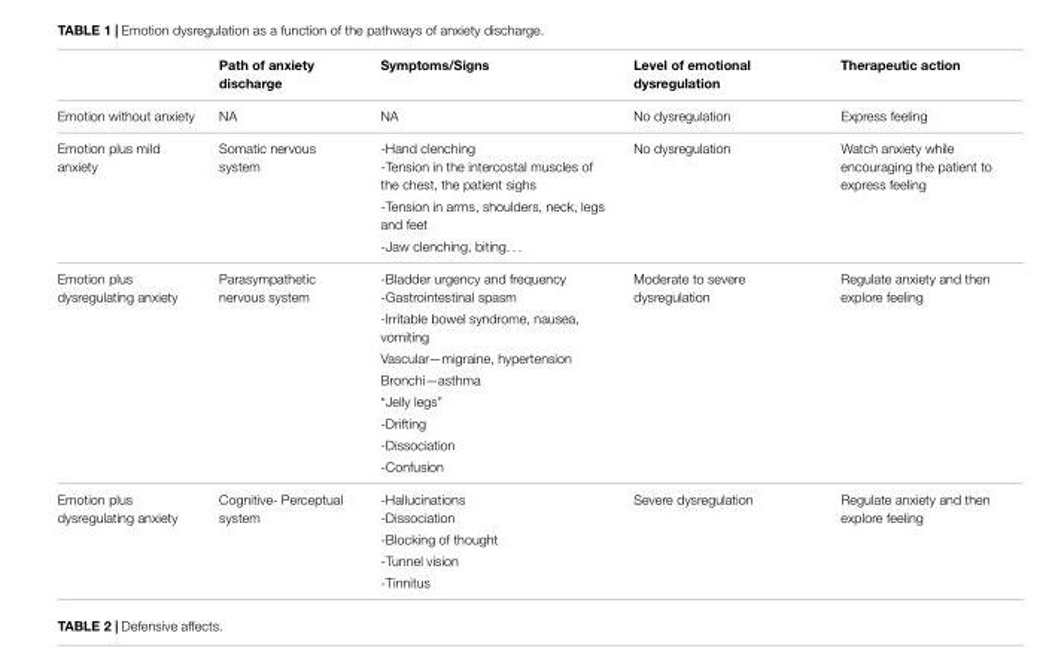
<table><thead><tr><td></td><td>Path of anxiety discharge</td><td>Symptoms/Signs</td><td>Level of emotional dysregulation</td><td>Therapeutic action</td></tr></thead><tbody><tr><td>Emotion without anxiety</td><td>NA</td><td>NA</td><td>No dysregulation</td><td>Express feeling</td></tr><tr><td rowspan="3">Emotion plus mild anxiety</td><td>Somatic nervous system</td><td>-Hand clenching -Tension in the intercostal muscles of the chest, the patient sighs</td><td>No dysregulation</td><td>Watch anxiety while encouraging the patient to express feeling</td></tr><tr><td></td><td>-Tension in arms, shoulders, neck, legs and feet</td><td></td><td></td></tr><tr><td></td><td>-Jaw clenching, biting. . .</td><td></td><td></td></tr><tr><td rowspan="8">Emotion plus dysregulating anxiety</td><td>Parasympathetic nervous system</td><td>-Bladder urgency and frequency -Gastrointestinal spasm</td><td>Moderate to severe dysregulation</td><td>Regulate anxiety and then explore feeling</td></tr><tr><td></td><td>-Irritable bowel syndrome, nausea, vomiting</td><td></td><td></td></tr><tr><td></td><td>Vascular—migraine, hypertension</td><td></td><td></td></tr><tr><td></td><td>Bronchi—asthma</td><td></td><td></td></tr><tr><td></td><td>“Jelly legs”</td><td></td><td></td></tr><tr><td></td><td>-Drifting</td><td></td><td></td></tr><tr><td></td><td>-Dissociation</td><td></td><td></td></tr><tr><td></td><td>-Confusion</td><td></td><td></td></tr><tr><td rowspan="4">Emotion plus dysregulating anxiety</td><td>Cognitive- Perceptual system</td><td>-Hallucinations -Dissociation</td><td>Severe dysregulation</td><td>Regulate anxiety and then explore feeling</td></tr><tr><td></td><td>-Blocking of thought</td><td></td><td></td></tr><tr><td></td><td>-Tunnel vision</td><td></td><td></td></tr><tr><td></td><td>-Tinnitus</td><td></td><td></td></tr></tbody></table>